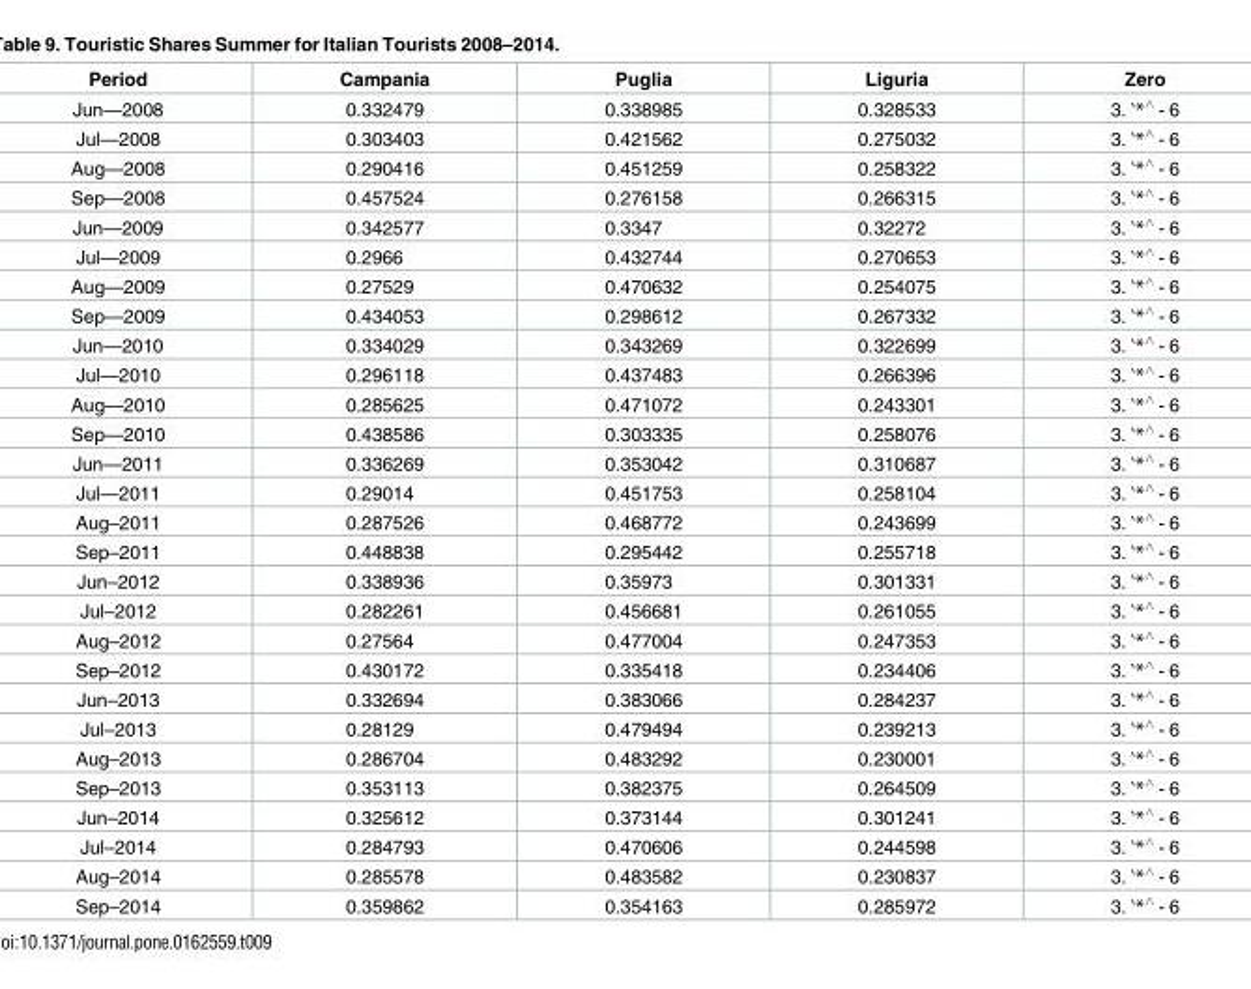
<table><thead><tr><td>Period</td><td>Campania</td><td>Puglia</td><td>Liguria</td><td>Zero</td></tr></thead><tbody><tr><td>Jun—2008</td><td>0.332479</td><td>0.338985</td><td>0.328533</td><td>3. ‵*<sup>∧</sup> - 6</td></tr><tr><td>Jul—2008</td><td>0.303403</td><td>0.421562</td><td>0.275032</td><td>3. ‵*<sup>∧</sup> - 6</td></tr><tr><td>Aug—2008</td><td>0.290416</td><td>0.451259</td><td>0.258322</td><td>3. ‵*<sup>∧</sup> - 6</td></tr><tr><td>Sep—2008</td><td>0.457524</td><td>0.276158</td><td>0.266315</td><td>3. ‵*<sup>∧</sup> - 6</td></tr><tr><td>Jun—2009</td><td>0.342577</td><td>0.3347</td><td>0.32272</td><td>3. ‵*<sup>∧</sup> - 6</td></tr><tr><td>Jul—2009</td><td>0.2966</td><td>0.432744</td><td>0.270653</td><td>3. ‵*<sup>∧</sup> - 6</td></tr><tr><td>Aug—2009</td><td>0.27529</td><td>0.470632</td><td>0.254075</td><td>3. ‵*<sup>∧</sup> - 6</td></tr><tr><td>Sep—2009</td><td>0.434053</td><td>0.298612</td><td>0.267332</td><td>3. ‵*<sup>∧</sup> - 6</td></tr><tr><td>Jun—2010</td><td>0.334029</td><td>0.343269</td><td>0.322699</td><td>3. ‵*<sup>∧</sup> - 6</td></tr><tr><td>Jul—2010</td><td>0.296118</td><td>0.437483</td><td>0.266396</td><td>3. ‵*<sup>∧</sup> - 6</td></tr><tr><td>Aug—2010</td><td>0.285625</td><td>0.471072</td><td>0.243301</td><td>3. ‵*<sup>∧</sup> - 6</td></tr><tr><td>Sep—2010</td><td>0.438586</td><td>0.303335</td><td>0.258076</td><td>3. ‵*<sup>∧</sup> - 6</td></tr><tr><td>Jun—2011</td><td>0.336269</td><td>0.353042</td><td>0.310687</td><td>3. ‵*<sup>∧</sup> - 6</td></tr><tr><td>Jul—2011</td><td>0.29014</td><td>0.451753</td><td>0.258104</td><td>3. ‵*<sup>∧</sup> - 6</td></tr><tr><td>Aug–2011</td><td>0.287526</td><td>0.468772</td><td>0.243699</td><td>3. ‵*<sup>∧</sup> - 6</td></tr><tr><td>Sep–2011</td><td>0.448838</td><td>0.295442</td><td>0.255718</td><td>3. ‵*<sup>∧</sup> - 6</td></tr><tr><td>Jun–2012</td><td>0.338936</td><td>0.35973</td><td>0.301331</td><td>3. ‵*<sup>∧</sup> - 6</td></tr><tr><td>Jul–2012</td><td>0.282261</td><td>0.456681</td><td>0.261055</td><td>3. ‵*<sup>∧</sup> - 6</td></tr><tr><td>Aug–2012</td><td>0.27564</td><td>0.477004</td><td>0.247353</td><td>3. ‵*<sup>∧</sup> - 6</td></tr><tr><td>Sep–2012</td><td>0.430172</td><td>0.335418</td><td>0.234406</td><td>3. ‵*<sup>∧</sup> - 6</td></tr><tr><td>Jun–2013</td><td>0.332694</td><td>0.383066</td><td>0.284237</td><td>3. ‵*<sup>∧</sup> - 6</td></tr><tr><td>Jul–2013</td><td>0.28129</td><td>0.479494</td><td>0.239213</td><td>3. ‵*<sup>∧</sup> - 6</td></tr><tr><td>Aug–2013</td><td>0.286704</td><td>0.483292</td><td>0.230001</td><td>3. ‵*<sup>∧</sup> - 6</td></tr><tr><td>Sep–2013</td><td>0.353113</td><td>0.382375</td><td>0.264509</td><td>3. ‵*<sup>∧</sup> - 6</td></tr><tr><td>Jun–2014</td><td>0.325612</td><td>0.373144</td><td>0.301241</td><td>3. ‵*<sup>∧</sup> - 6</td></tr><tr><td>Jul–2014</td><td>0.284793</td><td>0.470606</td><td>0.244598</td><td>3. ‵*<sup>∧</sup> - 6</td></tr><tr><td>Aug–2014</td><td>0.285578</td><td>0.483582</td><td>0.230837</td><td>3. ‵*<sup>∧</sup> - 6</td></tr><tr><td>Sep–2014</td><td>0.359862</td><td>0.354163</td><td>0.285972</td><td>3. ‵*<sup>∧</sup> - 6</td></tr></tbody></table>